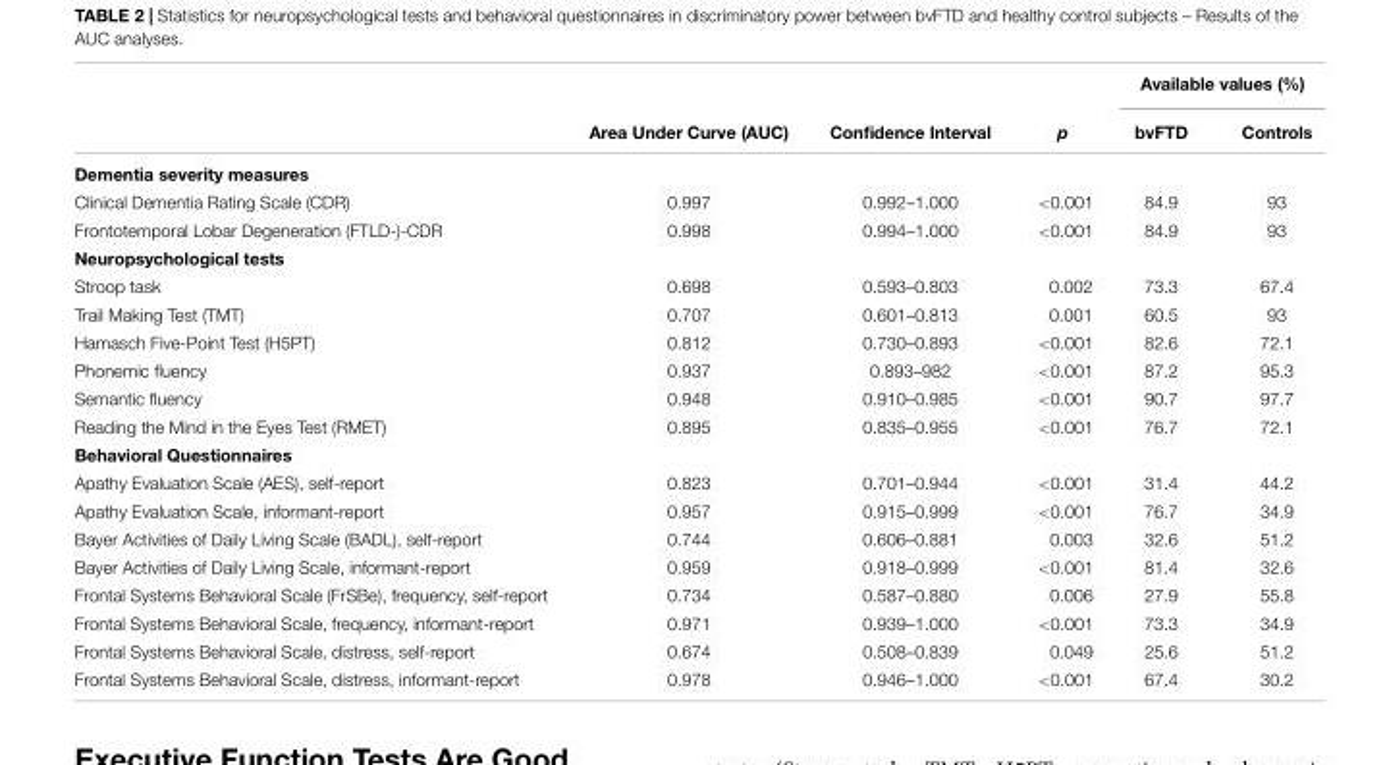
<table><thead><tr><td rowspan="2"></td><td rowspan="2">Area Under Curve (AUC)</td><td rowspan="2">Confidence Interval</td><td rowspan="2">p</td><td colspan="2">Available values (%)</td></tr><tr><td>bvFTD</td><td>Controls</td></tr></thead><tbody><tr><td colspan="6">Dementia severity measures</td></tr><tr><td>Clinical Dementia Rating Scale (CDR)</td><td>0.997</td><td>0.992–1.000</td><td>&lt;0.001</td><td>84.9</td><td>93</td></tr><tr><td>Frontotemporal Lobar Degeneration (FTLD-)-CDR</td><td>0.998</td><td>0.994–1.000</td><td>&lt;0.001</td><td>84.9</td><td>93</td></tr><tr><td colspan="6">Neuropsychological tests</td></tr><tr><td>Stroop task</td><td>0.698</td><td>0.593–0.803</td><td>0.002</td><td>73.3</td><td>67.4</td></tr><tr><td>Trail Making Test (TMT)</td><td>0.707</td><td>0.601–0.813</td><td>0.001</td><td>60.5</td><td>93</td></tr><tr><td>Hamasch Five-Point Test (H5PT)</td><td>0.812</td><td>0.730–0.893</td><td>&lt;0.001</td><td>82.6</td><td>72.1</td></tr><tr><td>Phonemic fluency</td><td>0.937</td><td>0.893–982</td><td>&lt;0.001</td><td>87.2</td><td>95.3</td></tr><tr><td>Semantic fluency</td><td>0.948</td><td>0.910–0.985</td><td>&lt;0.001</td><td>90.7</td><td>97.7</td></tr><tr><td>Reading the Mind in the Eyes Test (RMET)</td><td>0.895</td><td>0.835–0.955</td><td>&lt;0.001</td><td>76.7</td><td>72.1</td></tr><tr><td colspan="6">Behavioral Questionnaires</td></tr><tr><td>Apathy Evaluation Scale (AES), self-report</td><td>0.823</td><td>0.701–0.944</td><td>&lt;0.001</td><td>31.4</td><td>44.2</td></tr><tr><td>Apathy Evaluation Scale, informant-report</td><td>0.957</td><td>0.915–0.999</td><td>&lt;0.001</td><td>76.7</td><td>34.9</td></tr><tr><td>Bayer Activities of Daily Living Scale (BADL), self-report</td><td>0.744</td><td>0.606–0.881</td><td>0.003</td><td>32.6</td><td>51.2</td></tr><tr><td>Bayer Activities of Daily Living Scale, informant-report</td><td>0.959</td><td>0.918–0.999</td><td>&lt;0.001</td><td>81.4</td><td>32.6</td></tr><tr><td>Frontal Systems Behavioral Scale (FrSBe), frequency, self-report</td><td>0.734</td><td>0.587–0.880</td><td>0.006</td><td>27.9</td><td>55.8</td></tr><tr><td>Frontal Systems Behavioral Scale, frequency, informant-report</td><td>0.971</td><td>0.939–1.000</td><td>&lt;0.001</td><td>73.3</td><td>34.9</td></tr><tr><td>Frontal Systems Behavioral Scale, distress, self-report</td><td>0.674</td><td>0.508–0.839</td><td>0.049</td><td>25.6</td><td>51.2</td></tr><tr><td>Frontal Systems Behavioral Scale, distress, informant-report</td><td>0.978</td><td>0.946–1.000</td><td>&lt;0.001</td><td>67.4</td><td>30.2</td></tr></tbody></table>